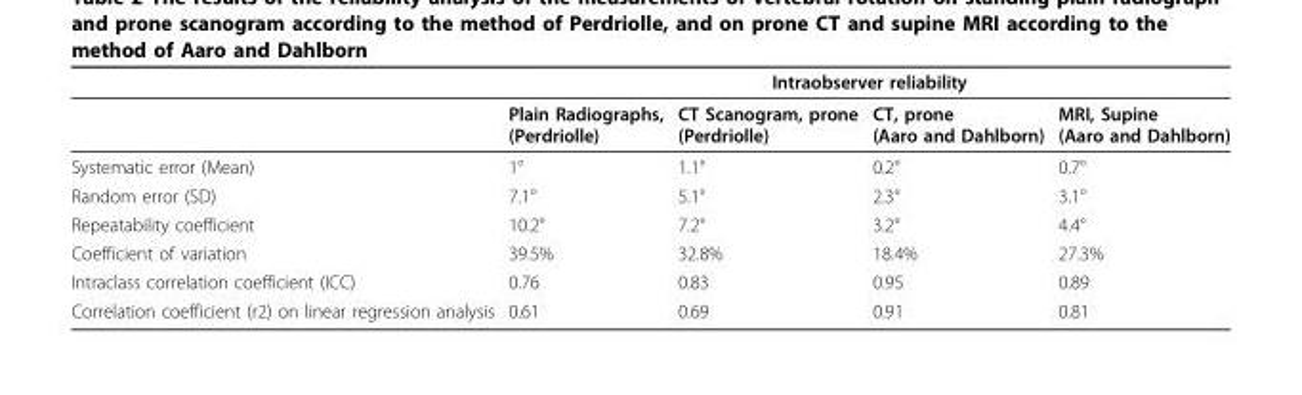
<table><thead><tr><td rowspan="2"></td><td colspan="4">Intraobserver reliability</td></tr><tr><td>Plain Radiographs, (Perdriolle)</td><td>CT Scanogram, prone (Perdriolle)</td><td>CT, prone (Aaro and Dahlborn)</td><td>MRI, Supine (Aaro and Dahlborn)</td></tr></thead><tbody><tr><td>Systematic error (Mean)</td><td>1°</td><td>1.1°</td><td>0.2°</td><td>0.7°</td></tr><tr><td>Random error (SD)</td><td>7.1°</td><td>5.1°</td><td>2.3°</td><td>3.1°</td></tr><tr><td>Repeatability coefficient</td><td>10.2°</td><td>7.2°</td><td>3.2°</td><td>4.4°</td></tr><tr><td>Coefficient of variation</td><td>39.5%</td><td>32.8%</td><td>18.4%</td><td>27.3%</td></tr><tr><td>Intraclass correlation coefficient (ICC)</td><td>0.76</td><td>0.83</td><td>0.95</td><td>0.89</td></tr><tr><td>Correlation coefficient (r2) on linear regression analysis</td><td>0.61</td><td>0.69</td><td>0.91</td><td>0.81</td></tr></tbody></table>